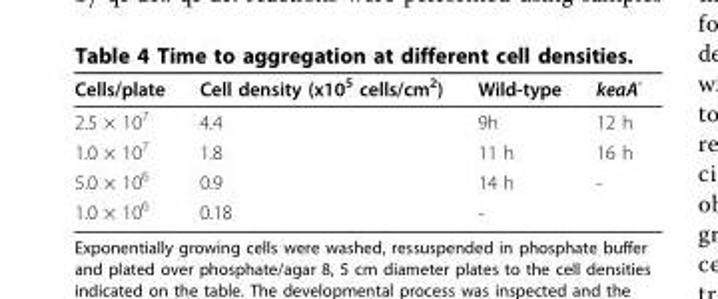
<table><thead><tr><td>Cells/plate</td><td>Cell density (x10<sup>5</sup> cells/cm<sup>2</sup>)</td><td>Wild-type</td><td>keaA<sup>-</sup></td></tr></thead><tbody><tr><td>2.5 × 10<sup>7</sup></td><td>4.4</td><td>9h</td><td>12 h</td></tr><tr><td>1.0 × 10<sup>7</sup></td><td>1.8</td><td>11 h</td><td>16 h</td></tr><tr><td>5.0 × 10<sup>6</sup></td><td>0.9</td><td>14 h</td><td>-</td></tr><tr><td>1.0 × 10<sup>6</sup></td><td>0.18</td><td>-</td><td></td></tr></tbody></table>